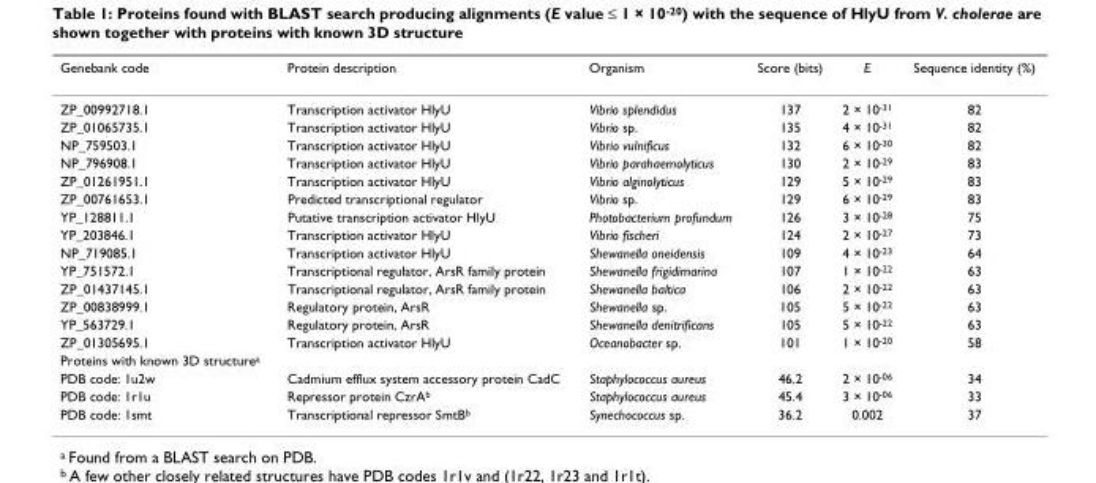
<table><thead><tr><td>Genebank code</td><td>Protein description</td><td>Organism</td><td>Score (bits)</td><td>E</td><td>Sequence identity (%)</td></tr></thead><tbody><tr><td>ZP_00992718.1</td><td>Transcription activator HlyU</td><td>Vibrio splendidus</td><td>137</td><td>2 × 10-31</td><td>82</td></tr><tr><td>ZP_01065735.1</td><td>Transcription activator HlyU</td><td>Vibrio sp.</td><td>135</td><td>4 × 10-31</td><td>82</td></tr><tr><td>NP_759503.1</td><td>Transcription activator HlyU</td><td>Vibrio vulnificus</td><td>132</td><td>6 × 10-30</td><td>82</td></tr><tr><td>NP_796908.1</td><td>Transcription activator HlyU</td><td>Vibrio parahaemolyticus</td><td>130</td><td>2 × 10-29</td><td>83</td></tr><tr><td>ZP_01261951.1</td><td>Transcription activator HlyU</td><td>Vibrio alginolyticus</td><td>129</td><td>5 × 10-29</td><td>83</td></tr><tr><td>ZP_00761653.1</td><td>Predicted transcriptional regulator</td><td>Vibrio sp.</td><td>129</td><td>6 × 10-29</td><td>83</td></tr><tr><td>YP_128811.1</td><td>Putative transcription activator HlyU</td><td>Photobacterium profundum</td><td>126</td><td>3 × 10-28</td><td>75</td></tr><tr><td>YP_203846.1</td><td>Transcription activator HlyU</td><td>Vibrio fischeri</td><td>124</td><td>2 × 10-27</td><td>73</td></tr><tr><td>NP_719085.1</td><td>Transcription activator HlyU</td><td>Shewanella oneidensis</td><td>109</td><td>4 × 10-23</td><td>64</td></tr><tr><td>YP_751572.1</td><td>Transcriptional regulator, ArsR family protein</td><td>Shewanella frigidimarina</td><td>107</td><td>1 × 10-22</td><td>63</td></tr><tr><td>ZP_01437145.1</td><td>Transcriptional regulator, ArsR family protein</td><td>Shewanella baltica</td><td>106</td><td>2 × 10-22</td><td>63</td></tr><tr><td>ZP_00838999.1</td><td>Regulatory protein, ArsR</td><td>Shewanella sp.</td><td>105</td><td>5 × 10-22</td><td>63</td></tr><tr><td>YP_563729.1</td><td>Regulatory protein, ArsR</td><td>Shewanella denitrificans</td><td>105</td><td>5 × 10-22</td><td>63</td></tr><tr><td>ZP_01305695.1</td><td>Transcription activator HlyU</td><td>Oceanobacter sp.</td><td>101</td><td>1 × 10-20</td><td>58</td></tr><tr><td colspan="6">Proteins with known 3D structurea</td></tr><tr><td>PDB code: 1u2w</td><td>Cadmium efflux system accessory protein CadC</td><td>Staphylococcus aureus</td><td>46.2</td><td>2 × 10-06</td><td>34</td></tr><tr><td>PDB code: 1r1u</td><td>Repressor protein CzrAb</td><td>Staphylococcus aureus</td><td>45.4</td><td>3 × 10-06</td><td>33</td></tr><tr><td>PDB code: 1smt</td><td>Transcriptional repressor SmtBb</td><td>Synechococcus sp.</td><td>36.2</td><td>0.002</td><td>37</td></tr></tbody></table>